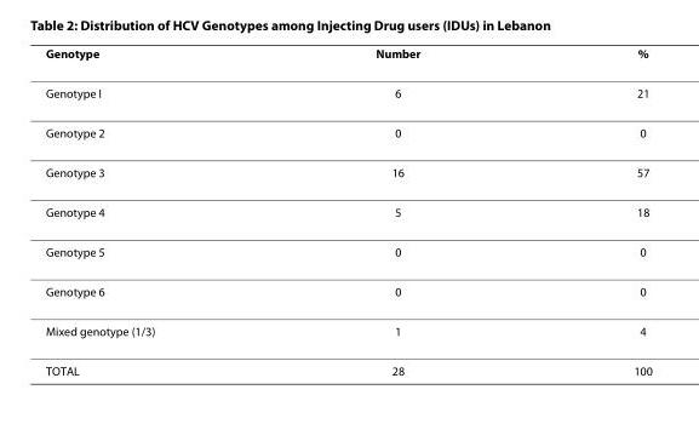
<table><thead><tr><td>Genotype</td><td>Number</td><td>%</td></tr></thead><tbody><tr><td>Genotype I</td><td>6</td><td>21</td></tr><tr><td>Genotype 2</td><td>0</td><td>0</td></tr><tr><td>Genotype 3</td><td>16</td><td>57</td></tr><tr><td>Genotype 4</td><td>5</td><td>18</td></tr><tr><td>Genotype 5</td><td>0</td><td>0</td></tr><tr><td>Genotype 6</td><td>0</td><td>0</td></tr><tr><td>Mixed genotype (1/3)</td><td>1</td><td>4</td></tr><tr><td>TOTAL</td><td>28</td><td>100</td></tr></tbody></table>